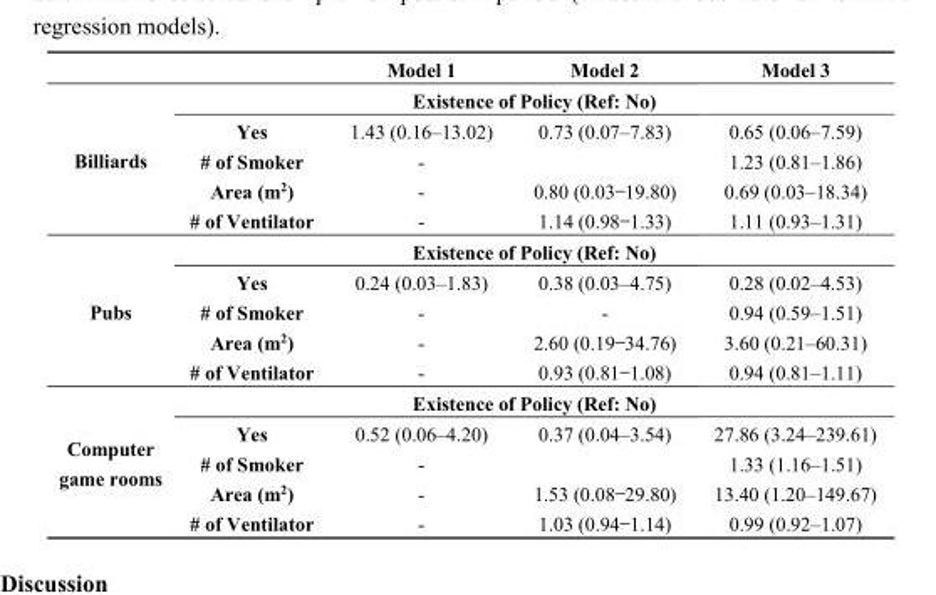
<table><thead><tr><td></td><td></td><td>Model 1</td><td>Model 2</td><td>Model 3</td></tr></thead><tbody><tr><td rowspan="5">Billiards</td><td colspan="4">Existence of Policy (Ref: No)</td></tr><tr><td>Yes</td><td>1.43 (0.16–13.02)</td><td>0.73 (0.07–7.83)</td><td>0.65 (0.06–7.59)</td></tr><tr><td># of Smoker</td><td>-</td><td></td><td>1.23 (0.81–1.86)</td></tr><tr><td>Area (m<sup>2</sup>)</td><td>-</td><td>0.80 (0.03–19.80)</td><td>0.69 (0.03–18.34)</td></tr><tr><td># of Ventilator</td><td>-</td><td>1.14 (0.98–1.33)</td><td>1.11 (0.93–1.31)</td></tr><tr><td rowspan="5">Pubs</td><td colspan="4">Existence of Policy (Ref: No)</td></tr><tr><td>Yes</td><td>0.24 (0.03–1.83)</td><td>0.38 (0.03–4.75)</td><td>0.28 (0.02–4.53)</td></tr><tr><td># of Smoker</td><td>-</td><td>-</td><td>0.94 (0.59–1.51)</td></tr><tr><td>Area (m<sup>2</sup>)</td><td>-</td><td>2.60 (0.19–34.76)</td><td>3.60 (0.21–60.31)</td></tr><tr><td># of Ventilator</td><td>-</td><td>0.93 (0.81–1.08)</td><td>0.94 (0.81–1.11)</td></tr><tr><td rowspan="5">Computer game rooms</td><td colspan="4">Existence of Policy (Ref: No)</td></tr><tr><td>Yes</td><td>0.52 (0.06–4.20)</td><td>0.37 (0.04–3.54)</td><td>27.86 (3.24–239.61)</td></tr><tr><td># of Smoker</td><td>-</td><td></td><td>1.33 (1.16–1.51)</td></tr><tr><td>Area (m<sup>2</sup>)</td><td>-</td><td>1.53 (0.08–29.80)</td><td>13.40 (1.20–149.67)</td></tr><tr><td># of Ventilator</td><td>-</td><td>1.03 (0.94–1.14)</td><td>0.99 (0.92–1.07)</td></tr></tbody></table>